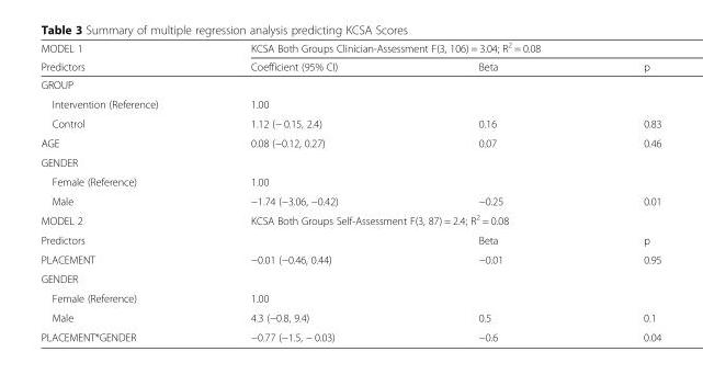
<table><thead><tr><td rowspan="2">MODEL 1 Predictors</td><td colspan="3">KCSA Both Groups Clinician-Assessment F(3, 106) = 3.04; R<sup>2</sup> = 0.08</td></tr><tr><td>Coefficient (95% CI)</td><td>Beta</td><td>p</td></tr></thead><tbody><tr><td colspan="4">GROUP</td></tr><tr><td>Intervention (Reference)</td><td>1.00</td><td></td><td></td></tr><tr><td>Control</td><td>1.12 (− 0.15, 2.4)</td><td>0.16</td><td>0.83</td></tr><tr><td>AGE</td><td>0.08 (−0.12, 0.27)</td><td>0.07</td><td>0.46</td></tr><tr><td colspan="4">GENDER</td></tr><tr><td>Female (Reference)</td><td>1.00</td><td></td><td></td></tr><tr><td>Male</td><td>−1.74 (−3.06, −0.42)</td><td>−0.25</td><td>0.01</td></tr><tr><td>MODEL 2</td><td colspan="3">KCSA Both Groups Self-Assessment F(3, 87) = 2.4; R<sup>2</sup> = 0.08</td></tr><tr><td>Predictors</td><td></td><td>Beta</td><td>p</td></tr><tr><td>PLACEMENT</td><td>−0.01 (−0.46, 0.44)</td><td>−0.01</td><td>0.95</td></tr><tr><td colspan="4">GENDER</td></tr><tr><td>Female (Reference)</td><td>1.00</td><td></td><td></td></tr><tr><td>Male</td><td>4.3 (−0.8, 9.4)</td><td>0.5</td><td>0.1</td></tr><tr><td>PLACEMENT*GENDER</td><td>−0.77 (−1.5, − 0.03)</td><td>−0.6</td><td>0.04</td></tr></tbody></table>